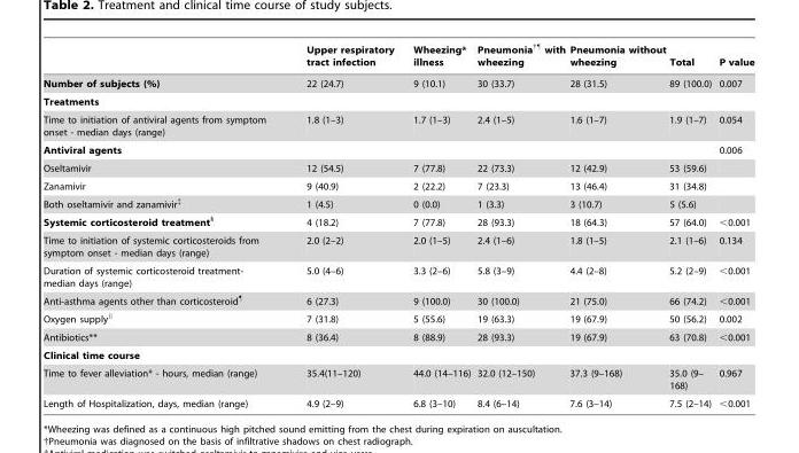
<table><thead><tr><td></td><td>Upper respiratory tract infection</td><td>Wheezing* illness</td><td>Pneumonia†<sup>¶</sup> with wheezing</td><td>Pneumonia without wheezing</td><td>Total</td><td>P value</td></tr></thead><tbody><tr><td>Number of subjects (%)</td><td>22 (24.7)</td><td>9 (10.1)</td><td>30 (33.7)</td><td>28 (31.5)</td><td>89 (100.0)</td><td>0.007</td></tr><tr><td colspan="7">Treatments</td></tr><tr><td>Time to initiation of antiviral agents from symptom onset - median days (range)</td><td>1.8 (1–3)</td><td>1.7 (1–3)</td><td>2.4 (1–5)</td><td>1.6 (1–7)</td><td>1.9 (1–7)</td><td>0.054</td></tr><tr><td>Antiviral agents</td><td></td><td></td><td></td><td></td><td></td><td>0.006</td></tr><tr><td>Oseltamivir</td><td>12 (54.5)</td><td>7 (77.8)</td><td>22 (73.3)</td><td>12 (42.9)</td><td>53 (59.6)</td><td></td></tr><tr><td>Zanamivir</td><td>9 (40.9)</td><td>2 (22.2)</td><td>7 (23.3)</td><td>13 (46.4)</td><td>31 (34.8)</td><td></td></tr><tr><td>Both oseltamivir and zanamivir‡</td><td>1 (4.5)</td><td>0 (0.0)</td><td>1 (3.3)</td><td>3 (10.7)</td><td>5 (5.6)</td><td></td></tr><tr><td>Systemic corticosteroid treatment§</td><td>4 (18.2)</td><td>7 (77.8)</td><td>28 (93.3)</td><td>18 (64.3)</td><td>57 (64.0)</td><td>&lt;0.001</td></tr><tr><td>Time to initiation of systemic corticosteroids from symptom onset - median days (range)</td><td>2.0 (2–2)</td><td>2.0 (1–5)</td><td>2.4 (1–6)</td><td>1.8 (1–5)</td><td>2.1 (1–6)</td><td>0.134</td></tr><tr><td>Duration of systemic corticosteroid treatment- median days (range)</td><td>5.0 (4–6)</td><td>3.3 (2–6)</td><td>5.8 (3–9)</td><td>4.4 (2–8)</td><td>5.2 (2–9)</td><td>&lt;0.001</td></tr><tr><td>Anti-asthma agents other than corticosteroid¶</td><td>6 (27.3)</td><td>9 (100.0)</td><td>30 (100.0)</td><td>21 (75.0)</td><td>66 (74.2)</td><td>&lt;0.001</td></tr><tr><td>Oxygen supply∥</td><td>7 (31.8)</td><td>5 (55.6)</td><td>19 (63.3)</td><td>19 (67.9)</td><td>50 (56.2)</td><td>0.002</td></tr><tr><td>Antibiotics**</td><td>8 (36.4)</td><td>8 (88.9)</td><td>28 (93.3)</td><td>19 (67.9)</td><td>63 (70.8)</td><td>&lt;0.001</td></tr><tr><td colspan="7">Clinical time course</td></tr><tr><td>Time to fever alleviation* - hours, median (range)</td><td>35.4(11–120)</td><td>44.0 (14–116)</td><td>32.0 (12–150)</td><td>37.3 (9–168)</td><td>35.0 (9– 168)</td><td>0.967</td></tr><tr><td>Length of Hospitalization, days, median (range)</td><td>4.9 (2–9)</td><td>6.8 (3–10)</td><td>8.4 (6–14)</td><td>7.6 (3–14)</td><td>7.5 (2–14)</td><td>&lt;0.001</td></tr></tbody></table>